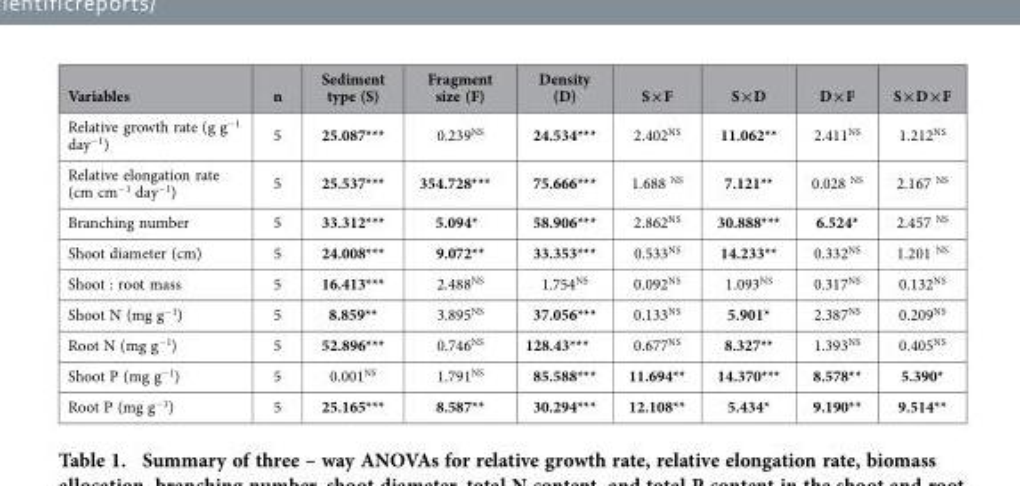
<table><thead><tr><td>Variables</td><td>n</td><td>Sediment type (S)</td><td>Fragment size (F)</td><td>Density (D)</td><td>S×F</td><td>S×D</td><td>D×F</td><td>S×D×F</td></tr></thead><tbody><tr><td>Relative growth rate (g g<sup>−1</sup> day<sup>−1</sup>)</td><td>5</td><td>25.087***</td><td>0.239<sup>NS</sup></td><td>24.534***</td><td>2.402<sup>NS</sup></td><td>11.062**</td><td>2.411<sup>NS</sup></td><td>1.212<sup>NS</sup></td></tr><tr><td>Relative elongation rate (cm cm<sup>−1</sup> day<sup>−1</sup>)</td><td>5</td><td>25.537***</td><td>354.728***</td><td>75.666***</td><td>1.688 <sup>NS</sup></td><td>7.121**</td><td>0.028 <sup>NS</sup></td><td>2.167 <sup>NS</sup></td></tr><tr><td>Branching number</td><td>5</td><td>33.312***</td><td>5.094*</td><td>58.906***</td><td>2.862<sup>NS</sup></td><td>30.888***</td><td>6.524*</td><td>2.457 <sup>NS</sup></td></tr><tr><td>Shoot diameter (cm)</td><td>5</td><td>24.008***</td><td>9.072**</td><td>33.353***</td><td>0.533<sup>NS</sup></td><td>14.233**</td><td>0.332<sup>NS</sup></td><td>1.201 <sup>NS</sup></td></tr><tr><td>Shoot : root mass</td><td>5</td><td>16.413***</td><td>2.488<sup>NS</sup></td><td>1.754<sup>NS</sup></td><td>0.092<sup>NS</sup></td><td>1.093<sup>NS</sup></td><td>0.317<sup>NS</sup></td><td>0.132<sup>NS</sup></td></tr><tr><td>Shoot N (mg g<sup>−1</sup>)</td><td>5</td><td>8.859**</td><td>3.895<sup>NS</sup></td><td>37.056***</td><td>0.133<sup>NS</sup></td><td>5.901*</td><td>2.387<sup>NS</sup></td><td>0.209<sup>NS</sup></td></tr><tr><td>Root N (mg g<sup>−1</sup>)</td><td>5</td><td>52.896***</td><td>0.746<sup>NS</sup></td><td>128.43***</td><td>0.677<sup>NS</sup></td><td>8.327**</td><td>1.393<sup>NS</sup></td><td>0.405<sup>NS</sup></td></tr><tr><td>Shoot P (mg g<sup>−1</sup>)</td><td>5</td><td>0.001<sup>NS</sup></td><td>1.791<sup>NS</sup></td><td>85.588***</td><td>11.694**</td><td>14.370***</td><td>8.578**</td><td>5.390*</td></tr><tr><td>Root P (mg g<sup>−1</sup>)</td><td>5</td><td>25.165***</td><td>8.587**</td><td>30.294***</td><td>12.108**</td><td>5.434*</td><td>9.190**</td><td>9.514**</td></tr></tbody></table>